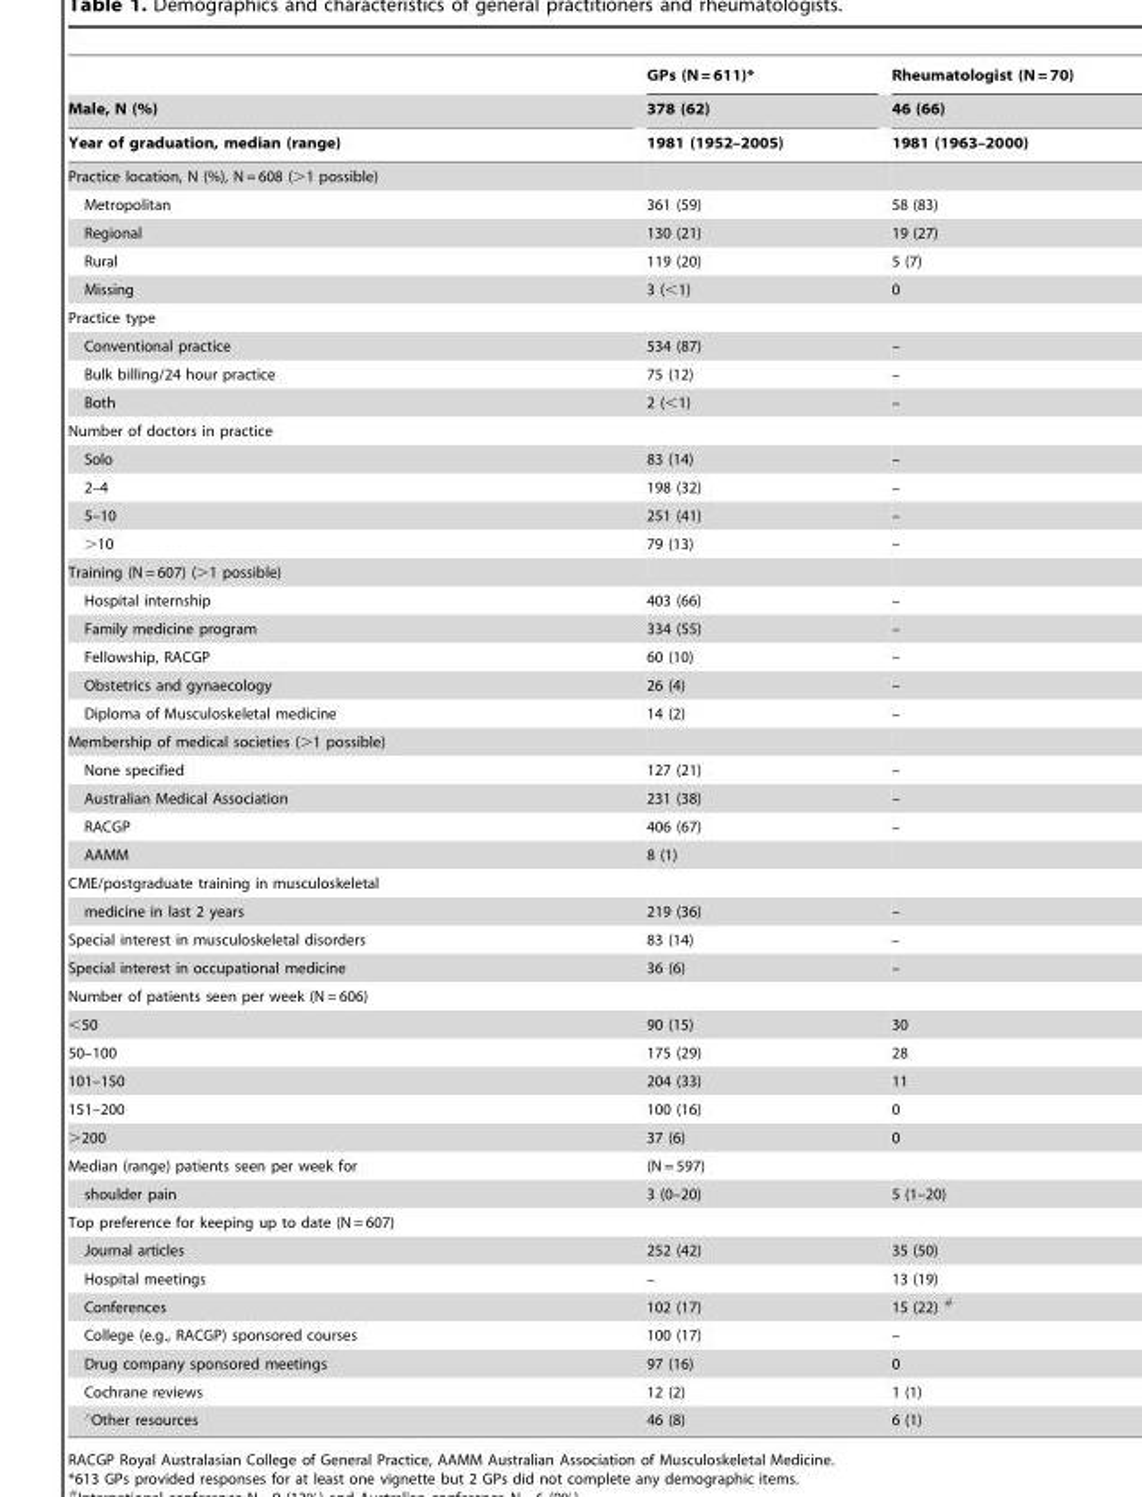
<table><thead><tr><td rowspan="3">Male, N (%) Year of graduation, median (range)</td><td rowspan="3">GPs (N = 611)* 378 (62) 1981 (1952–2005)</td><td rowspan="3">Rheumatologist (N = 70) 46 (66) 1981 (1963–2000)</td></tr><tr></tr><tr></tr></thead><tbody><tr><td colspan="3">Practice location, N (%), N = 608 (&gt;1 possible)</td></tr><tr><td>Metropolitan</td><td>361 (59)</td><td>58 (83)</td></tr><tr><td>Regional</td><td>130 (21)</td><td>19 (27)</td></tr><tr><td>Rural</td><td>119 (20)</td><td>5 (7)</td></tr><tr><td>Missing</td><td>3 (&lt;1)</td><td>0</td></tr><tr><td colspan="3">Practice type</td></tr><tr><td>Conventional practice</td><td>534 (87)</td><td>–</td></tr><tr><td>Bulk billing/24 hour practice</td><td>75 (12)</td><td>–</td></tr><tr><td>Both</td><td>2 (&lt;1)</td><td>–</td></tr><tr><td colspan="3">Number of doctors in practice</td></tr><tr><td>Solo</td><td>83 (14)</td><td>–</td></tr><tr><td>2–4</td><td>198 (32)</td><td>–</td></tr><tr><td>5–10</td><td>251 (41)</td><td>–</td></tr><tr><td>&gt;10</td><td>79 (13)</td><td>–</td></tr><tr><td colspan="3">Training (N = 607) (&gt;1 possible)</td></tr><tr><td>Hospital internship</td><td>403 (66)</td><td>–</td></tr><tr><td>Family medicine program</td><td>334 (55)</td><td>–</td></tr><tr><td>Fellowship, RACGP</td><td>60 (10)</td><td>–</td></tr><tr><td>Obstetrics and gynaecology</td><td>26 (4)</td><td>–</td></tr><tr><td>Diploma of Musculoskeletal medicine</td><td>14 (2)</td><td>–</td></tr><tr><td colspan="3">Membership of medical societies (&gt;1 possible)</td></tr><tr><td>None specified</td><td>127 (21)</td><td>–</td></tr><tr><td>Australian Medical Association</td><td>231 (38)</td><td>–</td></tr><tr><td>RACGP</td><td>406 (67)</td><td>–</td></tr><tr><td>AAMM</td><td>8 (1)</td><td></td></tr><tr><td colspan="3">CME/postgraduate training in musculoskeletal</td></tr><tr><td>medicine in last 2 years</td><td>219 (36)</td><td>–</td></tr><tr><td>Special interest in musculoskeletal disorders</td><td>83 (14)</td><td>–</td></tr><tr><td>Special interest in occupational medicine</td><td>36 (6)</td><td>–</td></tr><tr><td colspan="3">Number of patients seen per week (N = 606)</td></tr><tr><td>&lt;50</td><td>90 (15)</td><td>30</td></tr><tr><td>50–100</td><td>175 (29)</td><td>28</td></tr><tr><td>101–150</td><td>204 (33)</td><td>11</td></tr><tr><td>151–200</td><td>100 (16)</td><td>0</td></tr><tr><td>&gt;200</td><td>37 (6)</td><td>0</td></tr><tr><td>Median (range) patients seen per week for</td><td>(N = 597)</td><td></td></tr><tr><td>shoulder pain</td><td>3 (0–20)</td><td>5 (1–20)</td></tr><tr><td colspan="3">Top preference for keeping up to date (N = 607)</td></tr><tr><td>Journal articles</td><td>252 (42)</td><td>35 (50)</td></tr><tr><td>Hospital meetings</td><td>–</td><td>13 (19)</td></tr><tr><td>Conferences</td><td>102 (17)</td><td>15 (22) #</td></tr><tr><td>College (e.g., RACGP) sponsored courses</td><td>100 (17)</td><td>–</td></tr><tr><td>Drug company sponsored meetings</td><td>97 (16)</td><td>0</td></tr><tr><td>Cochrane reviews</td><td>12 (2)</td><td>1 (1)</td></tr><tr><td>‘Other resources</td><td>46 (8)</td><td>6 (1)</td></tr></tbody></table>